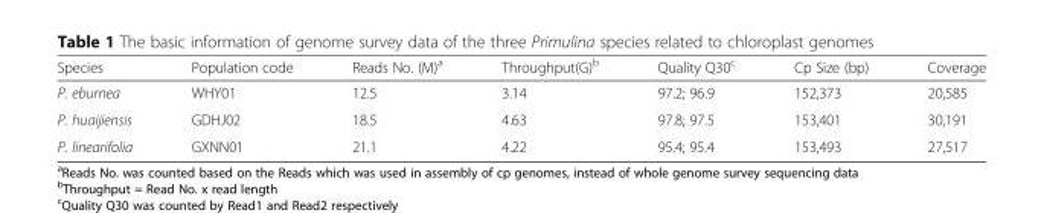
<table><thead><tr><td>Species</td><td>Population code</td><td>Reads No. (M)<sup>a</sup></td><td>Throughput(G)<sup>b</sup></td><td>Quality Q30<sup>c</sup></td><td>Cp Size (bp)</td><td>Coverage</td></tr></thead><tbody><tr><td>P. eburnea</td><td>WHY01</td><td>12.5</td><td>3.14</td><td>97.2; 96.9</td><td>152,373</td><td>20,585</td></tr><tr><td>P. huaijiensis</td><td>GDHJ02</td><td>18.5</td><td>4.63</td><td>97.8; 97.5</td><td>153,401</td><td>30,191</td></tr><tr><td>P. linearifolia</td><td>GXNN01</td><td>21.1</td><td>4.22</td><td>95.4; 95.4</td><td>153,493</td><td>27,517</td></tr></tbody></table>